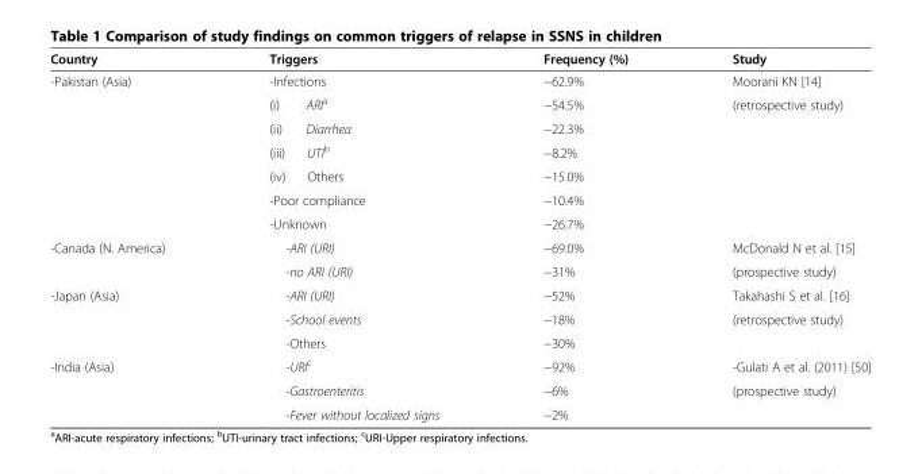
<table><thead><tr><td>Country</td><td>Triggers</td><td>Frequency (%)</td><td>Study</td></tr></thead><tbody><tr><td rowspan="7">-Pakistan (Asia)</td><td>-Infections</td><td>−62.9%</td><td>Moorani KN [14]</td></tr><tr><td>(i) ARI<sup>a</sup></td><td>−54.5%</td><td>(retrospective study)</td></tr><tr><td>(ii) Diarrhea</td><td>−22.3%</td><td></td></tr><tr><td>(iii) UTI<sup>b</sup></td><td>−8.2%</td><td></td></tr><tr><td>(iv) Others</td><td>−15.0%</td><td></td></tr><tr><td>-Poor compliance</td><td>−10.4%</td><td></td></tr><tr><td>-Unknown</td><td>−26.7%</td><td></td></tr><tr><td rowspan="2">-Canada (N. America)</td><td>-ARI (URI)</td><td>−69.0%</td><td>McDonald N et al. [15]</td></tr><tr><td>-no ARI (URI)</td><td>−31%</td><td>(prospective study)</td></tr><tr><td rowspan="3">-Japan (Asia)</td><td>-ARI (URI)</td><td>−52%</td><td>Takahashi S et al. [16]</td></tr><tr><td>-School events</td><td>−18%</td><td>(retrospective study)</td></tr><tr><td>-Others</td><td>−30%</td><td></td></tr><tr><td rowspan="3">-India (Asia)</td><td>-URI<sup>c</sup></td><td>−92%</td><td>-Gulati A et al. (2011) [50]</td></tr><tr><td>-Gastroenteritis</td><td>−6%</td><td>(prospective study)</td></tr><tr><td>-Fever without localized signs</td><td>−2%</td><td></td></tr></tbody></table>